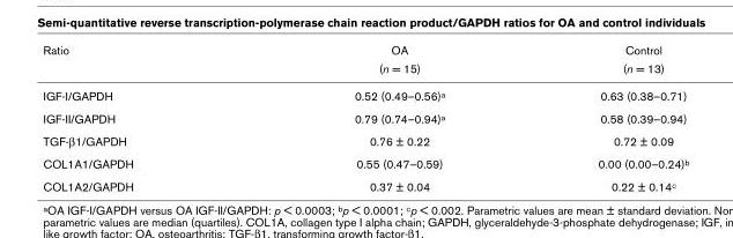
<table><thead><tr><td rowspan="2">Ratio</td><td rowspan="2">OA (n = 15)</td><td rowspan="2">Control (n = 13)</td></tr><tr></tr></thead><tbody><tr><td>IGF-I/GAPDH</td><td>0.52 (0.49–0.56)a</td><td>0.63 (0.38–0.71)</td></tr><tr><td>IGF-II/GAPDH</td><td>0.79 (0.74–0.94)a</td><td>0.58 (0.39–0.94)</td></tr><tr><td>TGF-β1/GAPDH</td><td>0.76 ± 0.22</td><td>0.72 ± 0.09</td></tr><tr><td>COL1A1/GAPDH</td><td>0.55 (0.47–0.59)</td><td>0.00 (0.00–0.24)b</td></tr><tr><td>COL1A2/GAPDH</td><td>0.37 ± 0.04</td><td>0.22 ± 0.14c</td></tr></tbody></table>